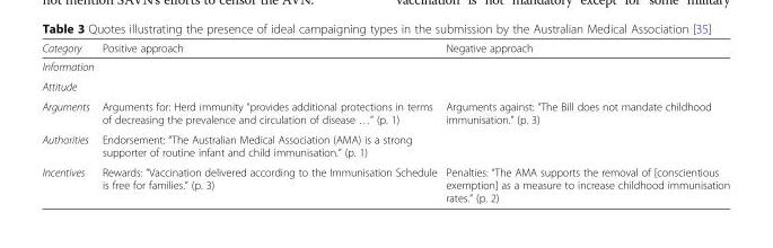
<table><thead><tr><td>Category</td><td>Positive approach</td><td>Negative approach</td></tr></thead><tbody><tr><td colspan="3">Information</td></tr><tr><td colspan="3">Attitude</td></tr><tr><td>Arguments</td><td>Arguments for: Herd immunity “provides additional protections in terms of decreasing the prevalence and circulation of disease …” (p. 1)</td><td>Arguments against: “The Bill does not mandate childhood immunisation.” (p. 3)</td></tr><tr><td>Authorities</td><td>Endorsement: “The Australian Medical Association (AMA) is a strong supporter of routine infant and child immunisation.” (p. 1)</td><td></td></tr><tr><td>Incentives</td><td>Rewards: “Vaccination delivered according to the Immunisation Schedule is free for families.” (p. 3)</td><td>Penalties: “The AMA supports the removal of [conscientious exemption] as a measure to increase childhood immunisation rates.” (p. 2)</td></tr></tbody></table>